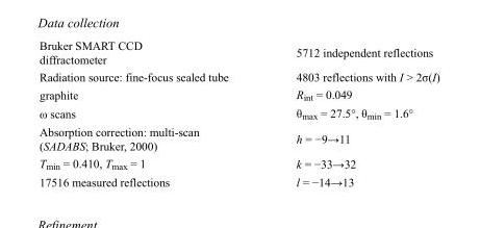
<table><tbody><tr><td>Bruker SMART CCD diffractometer</td><td>5712 independent reflections</td></tr><tr><td>Radiation source: fine-focus sealed tube</td><td>4803 reflections with I &gt; 2σ(I)</td></tr><tr><td>graphite</td><td>R<sub>int</sub> = 0.049</td></tr><tr><td>ω scans</td><td>θ<sub>max</sub> = 27.5°, θ<sub>min</sub> = 1.6°</td></tr><tr><td>Absorption correction: multi-scan (SADABS; Bruker, 2000)</td><td>h = −9→11</td></tr><tr><td>T<sub>min</sub> = 0.410, T<sub>max</sub> = 1</td><td>k = −33→32</td></tr><tr><td>17516 measured reflections</td><td>l = −14→13</td></tr></tbody></table>